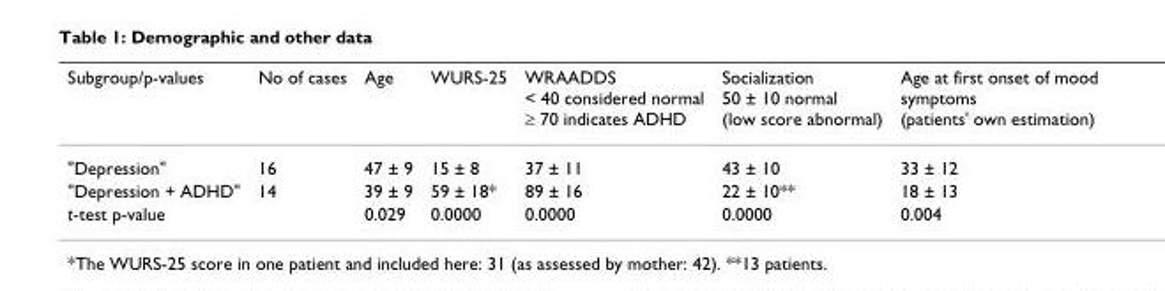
<table><thead><tr><td>Subgroup/p-values</td><td>No of cases</td><td>Age</td><td>WURS-25</td><td>WRAADDS &lt; 40 considered normal ≥ 70 indicates ADHD</td><td>Socialization 50 ± 10 normal (low score abnormal)</td><td>Age at first onset of mood symptoms (patients&#x27; own estimation)</td></tr></thead><tbody><tr><td>&quot;Depression&quot;</td><td>16</td><td>47 ± 9</td><td>15 ± 8</td><td>37 ± 11</td><td>43 ± 10</td><td>33 ± 12</td></tr><tr><td>&quot;Depression + ADHD&quot;</td><td>14</td><td>39 ± 9</td><td>59 ± 18*</td><td>89 ± 16</td><td>22 ± 10**</td><td>18 ± 13</td></tr><tr><td>t-test p-value</td><td></td><td>0.029</td><td>0.0000</td><td>0.0000</td><td>0.0000</td><td>0.004</td></tr></tbody></table>